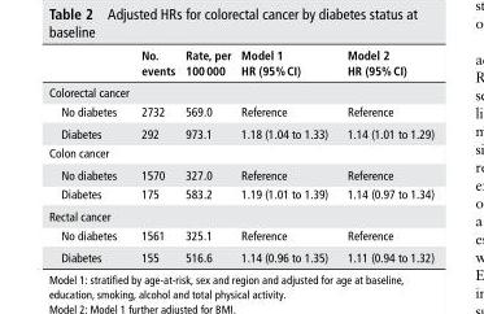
<table><thead><tr><td></td><td>no. events</td><td>rate, per 100 000</td><td>Model 1 hr (95% CI)</td><td>Model 2 hr (95% CI)</td></tr></thead><tbody><tr><td colspan="5">Colorectal cancer</td></tr><tr><td>No diabetes</td><td>2732</td><td>569.0</td><td>Reference</td><td>Reference</td></tr><tr><td>Diabetes</td><td>292</td><td>973.1</td><td>1.18 (1.04 to 1.33)</td><td>1.14 (1.01 to 1.29)</td></tr><tr><td colspan="5">Colon cancer</td></tr><tr><td>No diabetes</td><td>1570</td><td>327.0</td><td>Reference</td><td>Reference</td></tr><tr><td>Diabetes</td><td>175</td><td>583.2</td><td>1.19 (1.01 to 1.39)</td><td>1.14 (0.97 to 1.34)</td></tr><tr><td colspan="5">Rectal cancer</td></tr><tr><td>No diabetes</td><td>1561</td><td>325.1</td><td>Reference</td><td>Reference</td></tr><tr><td>Diabetes</td><td>155</td><td>516.6</td><td>1.14 (0.96 to 1.35)</td><td>1.11 (0.94 to 1.32)</td></tr></tbody></table>